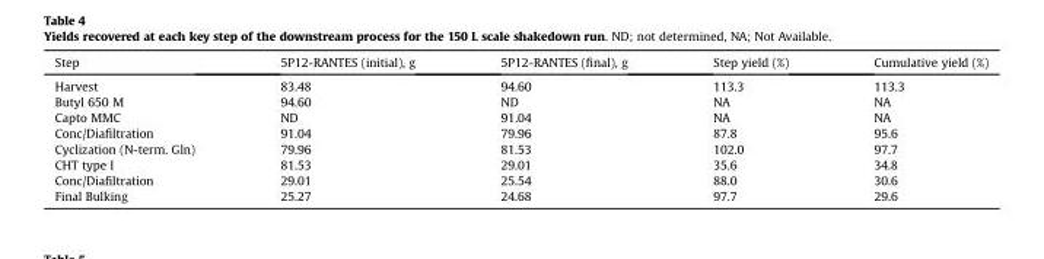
<table><thead><tr><td>Step</td><td>5P12-RANTES (initial), g</td><td>5P12-RANTES (final), g</td><td>Step yield (%)</td><td>Cumulative yield (%)</td></tr></thead><tbody><tr><td>Harvest</td><td>83.48</td><td>94.60</td><td>113.3</td><td>113.3</td></tr><tr><td>Butyl 650 M</td><td>94.60</td><td>ND</td><td>NA</td><td>NA</td></tr><tr><td>Capto MMC</td><td>ND</td><td>91.04</td><td>NA</td><td>NA</td></tr><tr><td>Conc/Diafiltration</td><td>91.04</td><td>79.96</td><td>87.8</td><td>95.6</td></tr><tr><td>Cyclization (N-term. Gln)</td><td>79.96</td><td>81.53</td><td>102.0</td><td>97.7</td></tr><tr><td>CHT type I</td><td>81.53</td><td>29.01</td><td>35.6</td><td>34.8</td></tr><tr><td>Conc/Diafiltration</td><td>29.01</td><td>25.54</td><td>88.0</td><td>30.6</td></tr><tr><td>Final Bulking</td><td>25.27</td><td>24.68</td><td>97.7</td><td>29.6</td></tr></tbody></table>